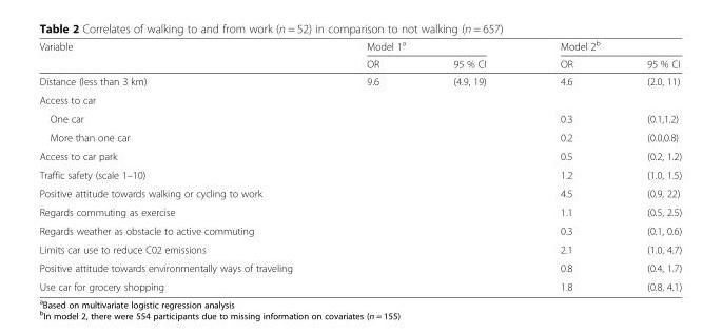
<table><thead><tr><td rowspan="2">Variable</td><td colspan="2">Model 1<sup>a</sup></td><td colspan="2">Model 2<sup>b</sup></td></tr><tr><td>OR</td><td>95 % CI</td><td>OR</td><td>95 % CI</td></tr></thead><tbody><tr><td>Distance (less than 3 km)</td><td>9.6</td><td>(4.9, 19)</td><td>4.6</td><td>(2.0, 11)</td></tr><tr><td colspan="5">Access to car</td></tr><tr><td>One car</td><td></td><td></td><td>0.3</td><td>(0.1,1.2)</td></tr><tr><td>More than one car</td><td></td><td></td><td>0.2</td><td>(0.0,0.8)</td></tr><tr><td>Access to car park</td><td></td><td></td><td>0.5</td><td>(0.2, 1.2)</td></tr><tr><td>Traffic safety (scale 1–10)</td><td></td><td></td><td>1.2</td><td>(1.0, 1.5)</td></tr><tr><td>Positive attitude towards walking or cycling to work</td><td></td><td></td><td>4.5</td><td>(0.9, 22)</td></tr><tr><td>Regards commuting as exercise</td><td></td><td></td><td>1.1</td><td>(0.5, 2.5)</td></tr><tr><td>Regards weather as obstacle to active commuting</td><td></td><td></td><td>0.3</td><td>(0.1, 0.6)</td></tr><tr><td>Limits car use to reduce C02 emissions</td><td></td><td></td><td>2.1</td><td>(1.0, 4.7)</td></tr><tr><td>Positive attitude towards environmentally ways of traveling</td><td></td><td></td><td>0.8</td><td>(0.4, 1.7)</td></tr><tr><td>Use car for grocery shopping</td><td></td><td></td><td>1.8</td><td>(0.8, 4.1)</td></tr></tbody></table>